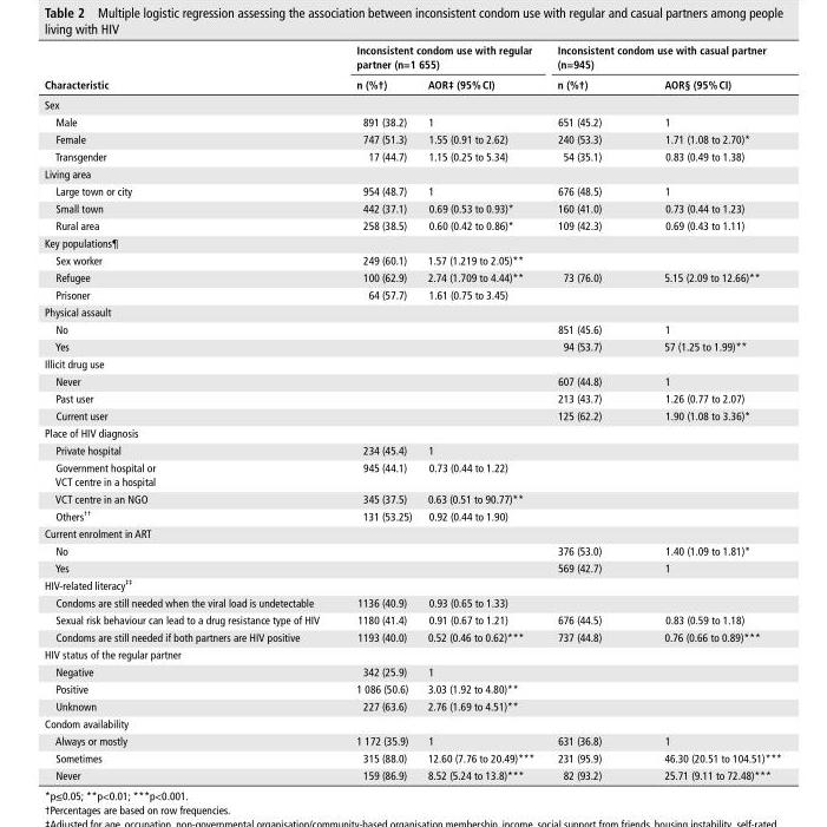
<table><thead><tr><td rowspan="2">Characteristic</td><td colspan="2">Inconsistent condom use with regular partner (n=1 655)</td><td colspan="2">Inconsistent condom use with casual partner (n=945)</td></tr><tr><td>n (%†)</td><td>AOr‡ (95% CI)</td><td>n (%†)</td><td>AOr§ (95% CI)</td></tr></thead><tbody><tr><td colspan="5">Sex</td></tr><tr><td>Male</td><td>891 (38.2)</td><td>1</td><td>651 (45.2)</td><td>1</td></tr><tr><td>Female</td><td>747 (51.3)</td><td>1.55 (0.91 to 2.62)</td><td>240 (53.3)</td><td>1.71 (1.08 to 2.70)*</td></tr><tr><td>Transgender</td><td>17 (44.7)</td><td>1.15 (0.25 to 5.34)</td><td>54 (35.1)</td><td>0.83 (0.49 to 1.38)</td></tr><tr><td colspan="5">Living area</td></tr><tr><td>Large town or city</td><td>954 (48.7)</td><td>1</td><td>676 (48.5)</td><td>1</td></tr><tr><td>Small town</td><td>442 (37.1)</td><td>0.69 (0.53 to 0.93)*</td><td>160 (41.0)</td><td>0.73 (0.44 to 1.23)</td></tr><tr><td>Rural area</td><td>258 (38.5)</td><td>0.60 (0.42 to 0.86)*</td><td>109 (42.3)</td><td>0.69 (0.43 to 1.11)</td></tr><tr><td colspan="5">Key populations¶</td></tr><tr><td>Sex worker</td><td>249 (60.1)</td><td>1.57 (1.219 to 2.05)**</td><td></td><td></td></tr><tr><td>Refugee</td><td>100 (62.9)</td><td>2.74 (1.709 to 4.44)**</td><td>73 (76.0)</td><td>5.15 (2.09 to 12.66)**</td></tr><tr><td>Prisoner</td><td>64 (57.7)</td><td>1.61 (0.75 to 3.45)</td><td></td><td></td></tr><tr><td colspan="5">Physical assault</td></tr><tr><td>No</td><td></td><td></td><td>851 (45.6)</td><td>1</td></tr><tr><td>Yes</td><td></td><td></td><td>94 (53.7)</td><td>57 (1.25 to 1.99)**</td></tr><tr><td colspan="5">Illicit drug use</td></tr><tr><td>Never</td><td></td><td></td><td>607 (44.8)</td><td>1</td></tr><tr><td>Past user</td><td></td><td></td><td>213 (43.7)</td><td>1.26 (0.77 to 2.07)</td></tr><tr><td>Current user</td><td></td><td></td><td>125 (62.2)</td><td>1.90 (1.08 to 3.36)*</td></tr><tr><td colspan="5">Place of HIV diagnosis</td></tr><tr><td>Private hospital</td><td>234 (45.4)</td><td>1</td><td></td><td></td></tr><tr><td>Government hospital or VCT centre in a hospital</td><td>945 (44.1)</td><td>0.73 (0.44 to 1.22)</td><td></td><td></td></tr><tr><td>VCT centre in an NGO</td><td>345 (37.5)</td><td>0.63 (0.51 to 90.77)**</td><td></td><td></td></tr><tr><td>Others<sup>††</sup></td><td>131 (53.25)</td><td>0.92 (0.44 to 1.90)</td><td></td><td></td></tr><tr><td colspan="5">Current enrolment in ART</td></tr><tr><td>No</td><td></td><td></td><td>376 (53.0)</td><td>1.40 (1.09 to 1.81)*</td></tr><tr><td>Yes</td><td></td><td></td><td>569 (42.7)</td><td>1</td></tr><tr><td colspan="5">HIV-related literacy<sup>‡‡</sup></td></tr><tr><td>Condoms are still needed when the viral load is undetectable</td><td>1136 (40.9)</td><td>0.93 (0.65 to 1.33)</td><td></td><td></td></tr><tr><td>Sexual risk behaviour can lead to a drug resistance type of HIV</td><td>1180 (41.4)</td><td>0.91 (0.67 to 1.21)</td><td>676 (44.5)</td><td>0.83 (0.59 to 1.18)</td></tr><tr><td>Condoms are still needed if both partners are HIV positive</td><td>1193 (40.0)</td><td>0.52 (0.46 to 0.62)***</td><td>737 (44.8)</td><td>0.76 (0.66 to 0.89)***</td></tr><tr><td colspan="5">HIV status of the regular partner</td></tr><tr><td>Negative</td><td>342 (25.9)</td><td>1</td><td></td><td></td></tr><tr><td>Positive</td><td>1 086 (50.6)</td><td>3.03 (1.92 to 4.80)**</td><td></td><td></td></tr><tr><td>Unknown</td><td>227 (63.6)</td><td>2.76 (1.69 to 4.51)**</td><td></td><td></td></tr><tr><td colspan="5">Condom availability</td></tr><tr><td>Always or mostly</td><td>1 172 (35.9)</td><td>1</td><td>631 (36.8)</td><td>1</td></tr><tr><td>Sometimes</td><td>315 (88.0)</td><td>12.60 (7.76 to 20.49)***</td><td>231 (95.9)</td><td>46.30 (20.51 to 104.51)***</td></tr><tr><td>Never</td><td>159 (86.9)</td><td>8.52 (5.24 to 13.8)***</td><td>82 (93.2)</td><td>25.71 (9.11 to 72.48)***</td></tr></tbody></table>